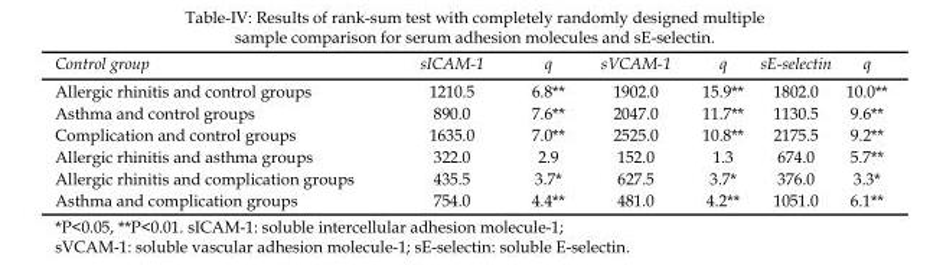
<table><thead><tr><td>Control group</td><td>sICAM-1</td><td>q</td><td>sVCAM-1</td><td>q</td><td>sE-selectin</td><td>q</td></tr></thead><tbody><tr><td>Allergic rhinitis and control groups</td><td>1210.5</td><td>6.8**</td><td>1902.0</td><td>15.9**</td><td>1802.0</td><td>10.0**</td></tr><tr><td>Asthma and control groups</td><td>890.0</td><td>7.6**</td><td>2047.0</td><td>11.7**</td><td>1130.5</td><td>9.6**</td></tr><tr><td>Complication and control groups</td><td>1635.0</td><td>7.0**</td><td>2525.0</td><td>10.8**</td><td>2175.5</td><td>9.2**</td></tr><tr><td>Allergic rhinitis and asthma groups</td><td>322.0</td><td>2.9</td><td>152.0</td><td>1.3</td><td>674.0</td><td>5.7**</td></tr><tr><td>Allergic rhinitis and complication groups</td><td>435.5</td><td>3.7*</td><td>627.5</td><td>3.7*</td><td>376.0</td><td>3.3*</td></tr><tr><td>Asthma and complication groups</td><td>754.0</td><td>4.4**</td><td>481.0</td><td>4.2**</td><td>1051.0</td><td>6.1**</td></tr></tbody></table>